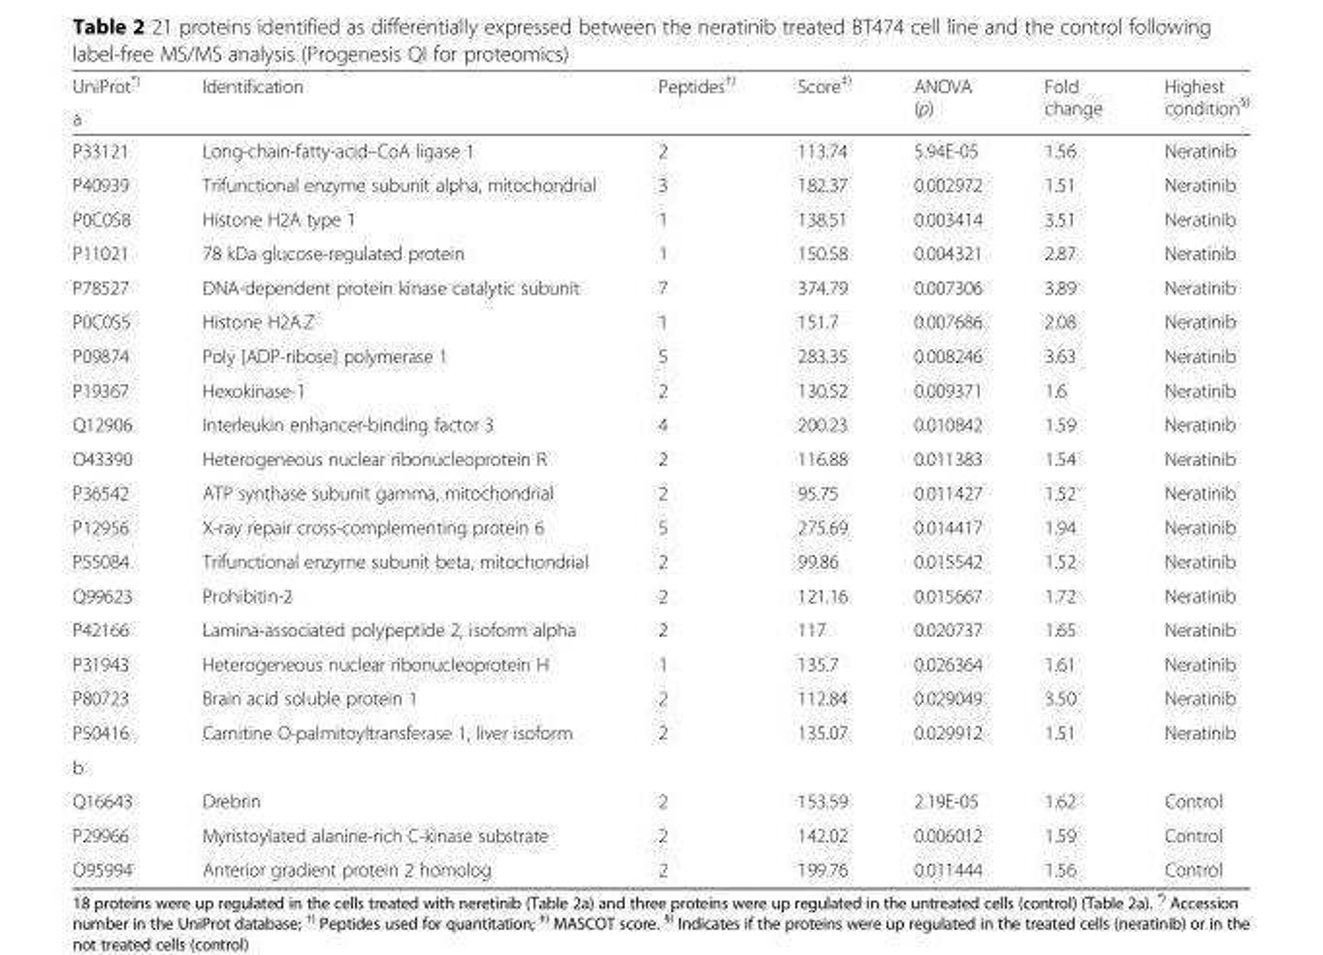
<table><thead><tr><td rowspan="2">UniProt<sup>*)</sup> a</td><td rowspan="2">Identification</td><td rowspan="2">Peptides<sup>†)</sup></td><td rowspan="2">Score<sup>‡)</sup></td><td rowspan="2">ANOVA (p)</td><td rowspan="2">Fold change</td><td rowspan="2">Highest condition<sup>§)</sup></td></tr><tr></tr></thead><tbody><tr><td>P33121</td><td>Long-chain-fatty-acid–CoA ligase 1</td><td>2</td><td>113.74</td><td>5.94E-05</td><td>1.56</td><td>Neratinib</td></tr><tr><td>P40939</td><td>Trifunctional enzyme subunit alpha, mitochondrial</td><td>3</td><td>182.37</td><td>0.002972</td><td>1.51</td><td>Neratinib</td></tr><tr><td>P0C0S8</td><td>Histone H2A type 1</td><td>1</td><td>138.51</td><td>0.003414</td><td>3.51</td><td>Neratinib</td></tr><tr><td>P11021</td><td>78 kDa glucose-regulated protein</td><td>1</td><td>150.58</td><td>0.004321</td><td>2.87</td><td>Neratinib</td></tr><tr><td>P78527</td><td>DNA-dependent protein kinase catalytic subunit</td><td>7</td><td>374.79</td><td>0.007306</td><td>3.89</td><td>Neratinib</td></tr><tr><td>P0C0S5</td><td>Histone H2A.Z</td><td>1</td><td>151.7</td><td>0.007686</td><td>2.08</td><td>Neratinib</td></tr><tr><td>P09874</td><td>Poly [ADP-ribose] polymerase 1</td><td>5</td><td>283.35</td><td>0.008246</td><td>3.63</td><td>Neratinib</td></tr><tr><td>P19367</td><td>Hexokinase-1</td><td>2</td><td>130.52</td><td>0.009371</td><td>1.6</td><td>Neratinib</td></tr><tr><td>Q12906</td><td>Interleukin enhancer-binding factor 3</td><td>4</td><td>200.23</td><td>0.010842</td><td>1.59</td><td>Neratinib</td></tr><tr><td>O43390</td><td>Heterogeneous nuclear ribonucleoprotein R</td><td>2</td><td>116.88</td><td>0.011383</td><td>1.54</td><td>Neratinib</td></tr><tr><td>P36542</td><td>ATP synthase subunit gamma, mitochondrial</td><td>2</td><td>95.75</td><td>0.011427</td><td>1.52</td><td>Neratinib</td></tr><tr><td>P12956</td><td>X-ray repair cross-complementing protein 6</td><td>5</td><td>275.69</td><td>0.014417</td><td>1.94</td><td>Neratinib</td></tr><tr><td>P55084</td><td>Trifunctional enzyme subunit beta, mitochondrial</td><td>2</td><td>99.86</td><td>0.015542</td><td>1.52</td><td>Neratinib</td></tr><tr><td>Q99623</td><td>Prohibitin-2</td><td>2</td><td>121.16</td><td>0.015667</td><td>1.72</td><td>Neratinib</td></tr><tr><td>P42166</td><td>Lamina-associated polypeptide 2, isoform alpha</td><td>2</td><td>117</td><td>0.020737</td><td>1.65</td><td>Neratinib</td></tr><tr><td>P31943</td><td>Heterogeneous nuclear ribonucleoprotein H</td><td>1</td><td>135.7</td><td>0.026364</td><td>1.61</td><td>Neratinib</td></tr><tr><td>P80723</td><td>Brain acid soluble protein 1</td><td>2</td><td>112.84</td><td>0.029049</td><td>3.50</td><td>Neratinib</td></tr><tr><td>P50416</td><td>Carnitine O-palmitoyltransferase 1, liver isoform</td><td>2</td><td>135.07</td><td>0.029912</td><td>1.51</td><td>Neratinib</td></tr><tr><td colspan="7">b</td></tr><tr><td>Q16643</td><td>Drebrin</td><td>2</td><td>153.59</td><td>2.19E-05</td><td>1.62</td><td>Control</td></tr><tr><td>P29966</td><td>Myristoylated alanine-rich C-kinase substrate</td><td>2</td><td>142.02</td><td>0.006012</td><td>1.59</td><td>Control</td></tr><tr><td>O95994</td><td>Anterior gradient protein 2 homolog</td><td>2</td><td>199.76</td><td>0.011444</td><td>1.56</td><td>Control</td></tr></tbody></table>